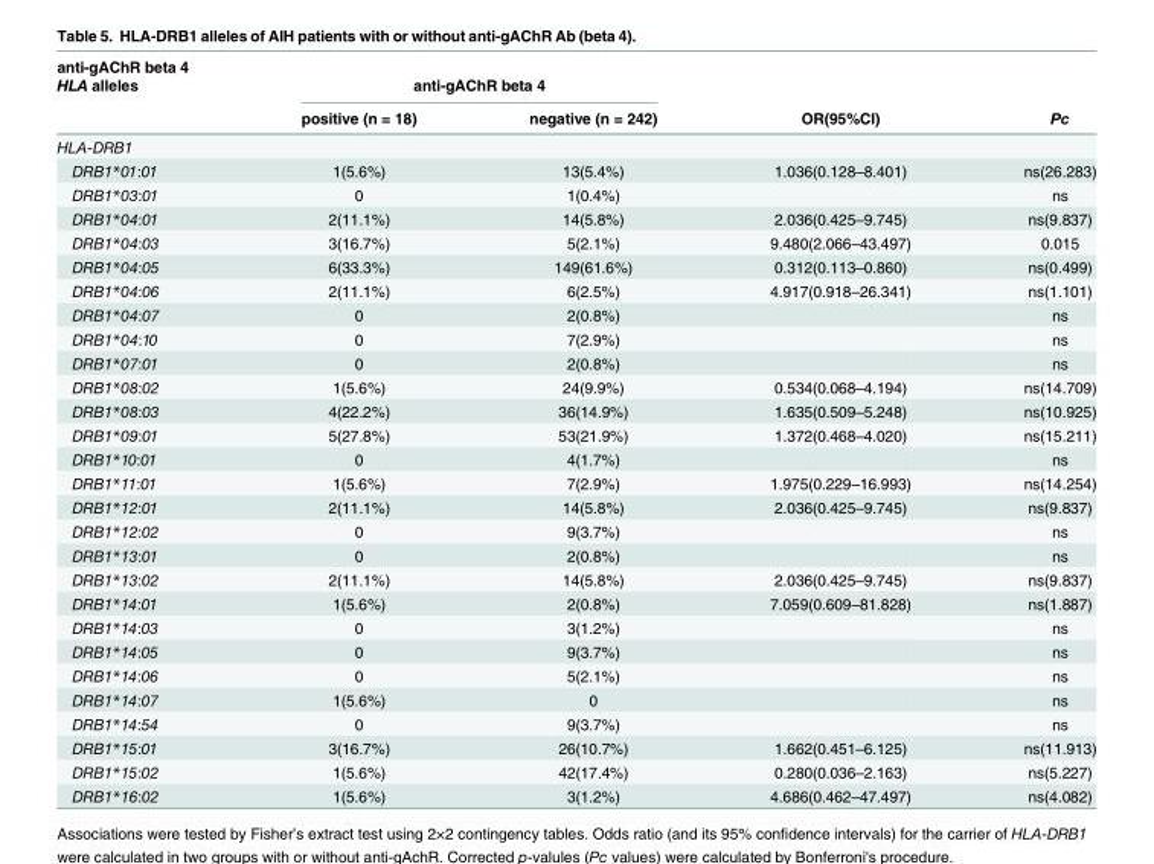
<table><thead><tr><td rowspan="3">anti-gAChR beta 4 HLA alleles</td><td></td><td></td><td rowspan="3">OR(95%CI)</td><td rowspan="3">Pc</td></tr><tr><td colspan="2">anti-gAChR beta 4</td></tr><tr><td>positive (n = 18)</td><td>negative (n = 242)</td></tr></thead><tbody><tr><td colspan="5">HLA-DRB1</td></tr><tr><td>DRB1*01:01</td><td>1(5.6%)</td><td>13(5.4%)</td><td>1.036(0.128–8.401)</td><td>ns(26.283)</td></tr><tr><td>DRB1*03:01</td><td>0</td><td>1(0.4%)</td><td></td><td>ns</td></tr><tr><td>DRB1*04:01</td><td>2(11.1%)</td><td>14(5.8%)</td><td>2.036(0.425–9.745)</td><td>ns(9.837)</td></tr><tr><td>DRB1*04:03</td><td>3(16.7%)</td><td>5(2.1%)</td><td>9.480(2.066–43.497)</td><td>0.015</td></tr><tr><td>DRB1*04:05</td><td>6(33.3%)</td><td>149(61.6%)</td><td>0.312(0.113–0.860)</td><td>ns(0.499)</td></tr><tr><td>DRB1*04:06</td><td>2(11.1%)</td><td>6(2.5%)</td><td>4.917(0.918–26.341)</td><td>ns(1.101)</td></tr><tr><td>DRB1*04:07</td><td>0</td><td>2(0.8%)</td><td></td><td>ns</td></tr><tr><td>DRB1*04:10</td><td>0</td><td>7(2.9%)</td><td></td><td>ns</td></tr><tr><td>DRB1*07:01</td><td>0</td><td>2(0.8%)</td><td></td><td>ns</td></tr><tr><td>DRB1*08:02</td><td>1(5.6%)</td><td>24(9.9%)</td><td>0.534(0.068–4.194)</td><td>ns(14.709)</td></tr><tr><td>DRB1*08:03</td><td>4(22.2%)</td><td>36(14.9%)</td><td>1.635(0.509–5.248)</td><td>ns(10.925)</td></tr><tr><td>DRB1*09:01</td><td>5(27.8%)</td><td>53(21.9%)</td><td>1.372(0.468–4.020)</td><td>ns(15.211)</td></tr><tr><td>DRB1*10:01</td><td>0</td><td>4(1.7%)</td><td></td><td>ns</td></tr><tr><td>DRB1*11:01</td><td>1(5.6%)</td><td>7(2.9%)</td><td>1.975(0.229–16.993)</td><td>ns(14.254)</td></tr><tr><td>DRB1*12:01</td><td>2(11.1%)</td><td>14(5.8%)</td><td>2.036(0.425–9.745)</td><td>ns(9.837)</td></tr><tr><td>DRB1*12:02</td><td>0</td><td>9(3.7%)</td><td></td><td>ns</td></tr><tr><td>DRB1*13:01</td><td>0</td><td>2(0.8%)</td><td></td><td>ns</td></tr><tr><td>DRB1*13:02</td><td>2(11.1%)</td><td>14(5.8%)</td><td>2.036(0.425–9.745)</td><td>ns(9.837)</td></tr><tr><td>DRB1*14:01</td><td>1(5.6%)</td><td>2(0.8%)</td><td>7.059(0.609–81.828)</td><td>ns(1.887)</td></tr><tr><td>DRB1*14:03</td><td>0</td><td>3(1.2%)</td><td></td><td>ns</td></tr><tr><td>DRB1*14:05</td><td>0</td><td>9(3.7%)</td><td></td><td>ns</td></tr><tr><td>DRB1*14:06</td><td>0</td><td>5(2.1%)</td><td></td><td>ns</td></tr><tr><td>DRB1*14:07</td><td>1(5.6%)</td><td>0</td><td></td><td>ns</td></tr><tr><td>DRB1*14:54</td><td>0</td><td>9(3.7%)</td><td></td><td>ns</td></tr><tr><td>DRB1*15:01</td><td>3(16.7%)</td><td>26(10.7%)</td><td>1.662(0.451–6.125)</td><td>ns(11.913)</td></tr><tr><td>DRB1*15:02</td><td>1(5.6%)</td><td>42(17.4%)</td><td>0.280(0.036–2.163)</td><td>ns(5.227)</td></tr><tr><td>DRB1*16:02</td><td>1(5.6%)</td><td>3(1.2%)</td><td>4.686(0.462–47.497)</td><td>ns(4.082)</td></tr></tbody></table>